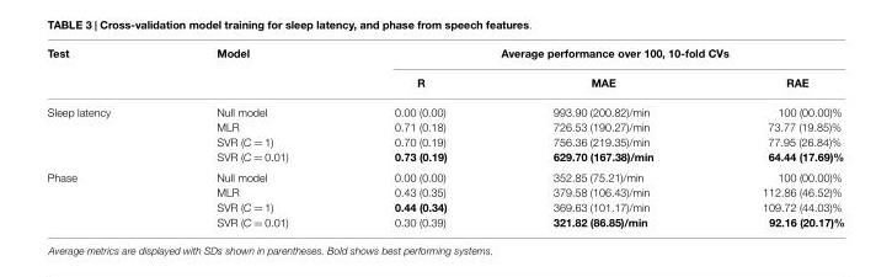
<table><thead><tr><td rowspan="2">Test</td><td rowspan="2">Model</td><td colspan="3">Average performance over 100, 10-fold CVs</td></tr><tr><td>R</td><td>MAE</td><td>RAE</td></tr></thead><tbody><tr><td rowspan="4">Sleep latency</td><td>Null model</td><td>0.00 (0.00)</td><td>993.90 (200.82)/min</td><td>100 (00.00)%</td></tr><tr><td>MLR</td><td>0.71 (0.18)</td><td>726.53 (190.27)/min</td><td>73.77 (19.85)%</td></tr><tr><td>SVR (C = 1)</td><td>0.70 (0.19)</td><td>756.36 (219.35)/min</td><td>77.95 (26.84)%</td></tr><tr><td>SVR (C = 0.01)</td><td>0.73 (0.19)</td><td>629.70 (167.38)/min</td><td>64.44 (17.69)%</td></tr><tr><td rowspan="4">Phase</td><td>Null model</td><td>0.00 (0.00)</td><td>352.85 (75.21)/min</td><td>100 (00.00)%</td></tr><tr><td>MLR</td><td>0.43 (0.35)</td><td>379.58 (106.43)/min</td><td>112.86 (46.52)%</td></tr><tr><td>SVR (C = 1)</td><td>0.44 (0.34)</td><td>369.63 (101.17)/min</td><td>109.72 (44.03)%</td></tr><tr><td>SVR (C = 0.01)</td><td>0.30 (0.39)</td><td>321.82 (86.85)/min</td><td>92.16 (20.17)%</td></tr></tbody></table>